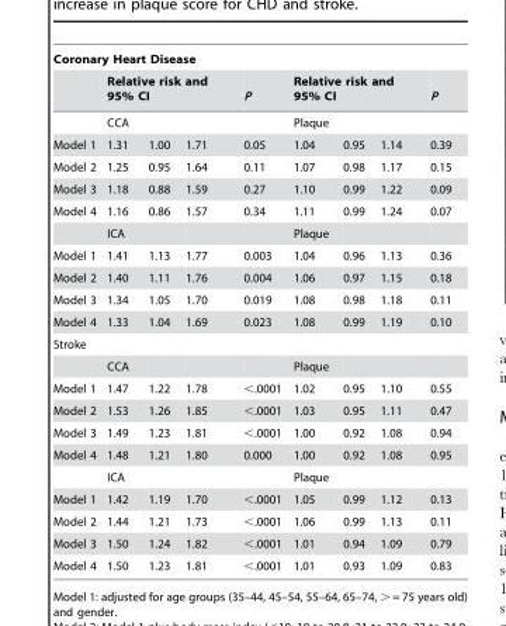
<table><thead><tr><td colspan="9">Coronary Heart Disease</td></tr><tr><td rowspan="2"></td><td colspan="3">Relative risk and 95% CI</td><td rowspan="2">P</td><td colspan="3">Relative risk and 95% CI</td><td rowspan="2">P</td></tr><tr><td>CCA</td><td></td><td></td><td>Plaque</td><td></td><td></td></tr></thead><tbody><tr><td>Model 1</td><td>1.31</td><td>1.00</td><td>1.71</td><td>0.05</td><td>1.04</td><td>0.95</td><td>1.14</td><td>0.39</td></tr><tr><td>Model 2</td><td>1.25</td><td>0.95</td><td>1.64</td><td>0.11</td><td>1.07</td><td>0.98</td><td>1.17</td><td>0.15</td></tr><tr><td>Model 3</td><td>1.18</td><td>0.88</td><td>1.59</td><td>0.27</td><td>1.10</td><td>0.99</td><td>1.22</td><td>0.09</td></tr><tr><td rowspan="2">Model 4</td><td>1.16</td><td>0.86</td><td>1.57</td><td>0.34</td><td>1.11</td><td>0.99</td><td>1.24</td><td>0.07</td></tr><tr><td>ICA</td><td></td><td></td><td></td><td>Plaque</td><td></td><td></td><td></td></tr><tr><td>Model 1</td><td>1.41</td><td>1.13</td><td>1.77</td><td>0.003</td><td>1.04</td><td>0.96</td><td>1.13</td><td>0.36</td></tr><tr><td>Model 2</td><td>1.40</td><td>1.11</td><td>1.76</td><td>0.004</td><td>1.06</td><td>0.97</td><td>1.15</td><td>0.18</td></tr><tr><td>Model 3</td><td>1.34</td><td>1.05</td><td>1.70</td><td>0.019</td><td>1.08</td><td>0.98</td><td>1.18</td><td>0.11</td></tr><tr><td>Model 4</td><td>1.33</td><td>1.04</td><td>1.69</td><td>0.023</td><td>1.08</td><td>0.99</td><td>1.19</td><td>0.10</td></tr><tr><td colspan="9">Stroke</td></tr><tr><td></td><td>CCA</td><td></td><td></td><td></td><td>Plaque</td><td></td><td></td><td></td></tr><tr><td>Model 1</td><td>1.47</td><td>1.22</td><td>1.78</td><td>&lt;.0001</td><td>1.02</td><td>0.95</td><td>1.10</td><td>0.55</td></tr><tr><td>Model 2</td><td>1.53</td><td>1.26</td><td>1.85</td><td>&lt;.0001</td><td>1.03</td><td>0.95</td><td>1.11</td><td>0.47</td></tr><tr><td>Model 3</td><td>1.49</td><td>1.23</td><td>1.81</td><td>&lt;.0001</td><td>1.00</td><td>0.92</td><td>1.08</td><td>0.94</td></tr><tr><td rowspan="2">Model 4</td><td>1.48</td><td>1.21</td><td>1.80</td><td>0.000</td><td>1.00</td><td>0.92</td><td>1.08</td><td>0.95</td></tr><tr><td>ICA</td><td></td><td></td><td></td><td>Plaque</td><td></td><td></td><td></td></tr><tr><td>Model 1</td><td>1.42</td><td>1.19</td><td>1.70</td><td>&lt;.0001</td><td>1.05</td><td>0.99</td><td>1.12</td><td>0.13</td></tr><tr><td>Model 2</td><td>1.44</td><td>1.21</td><td>1.73</td><td>&lt;.0001</td><td>1.06</td><td>0.99</td><td>1.13</td><td>0.11</td></tr><tr><td>Model 3</td><td>1.50</td><td>1.24</td><td>1.82</td><td>&lt;.0001</td><td>1.01</td><td>0.94</td><td>1.09</td><td>0.79</td></tr><tr><td>Model 4</td><td>1.50</td><td>1.23</td><td>1.81</td><td>&lt;.0001</td><td>1.01</td><td>0.93</td><td>1.09</td><td>0.83</td></tr></tbody></table>